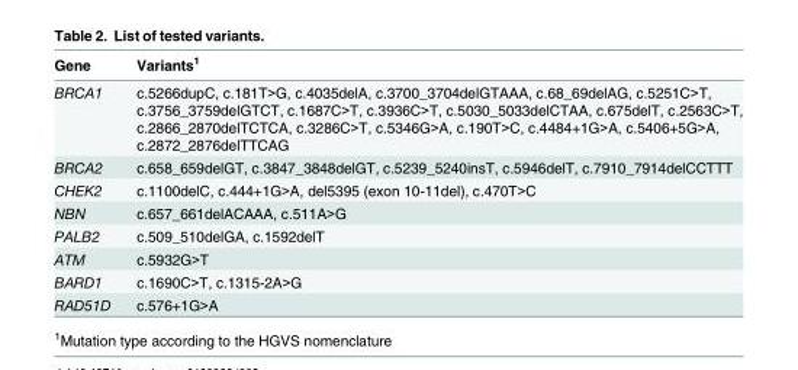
<table><thead><tr><td>Gene</td><td>Variants<sup>1</sup></td></tr></thead><tbody><tr><td>BRCA1</td><td>c.5266dupC, c.181T&gt;G, c.4035delA, c.3700_3704delGTAAA, c.68_69delAG, c.5251C&gt;T, c.3756_3759delGTCT, c.1687C&gt;T, c.3936C&gt;T, c.5030_5033delCTAA, c.675delT, c.2563C&gt;T, c.2866_2870delTCTCA, c.3286C&gt;T, c.5346G&gt;A, c.190T&gt;C, c.4484+1G&gt;A, c.5406+5G&gt;A, c.2872_2876delTTCAG</td></tr><tr><td>BRCA2</td><td>c.658_659delGT, c.3847_3848delGT, c.5239_5240insT, c.5946delT, c.7910_7914delCCTTT</td></tr><tr><td>CHEK2</td><td>c.1100delC, c.444+1G&gt;A, del5395 (exon 10-11del), c.470T&gt;C</td></tr><tr><td>NBN</td><td>c.657_661delACAAA, c.511A&gt;G</td></tr><tr><td>PALB2</td><td>c.509_510delGA, c.1592delT</td></tr><tr><td>ATM</td><td>c.5932G&gt;T</td></tr><tr><td>BARD1</td><td>c.1690C&gt;T, c.1315-2A&gt;G</td></tr><tr><td>RAD51D</td><td>c.576+1G&gt;A</td></tr></tbody></table>